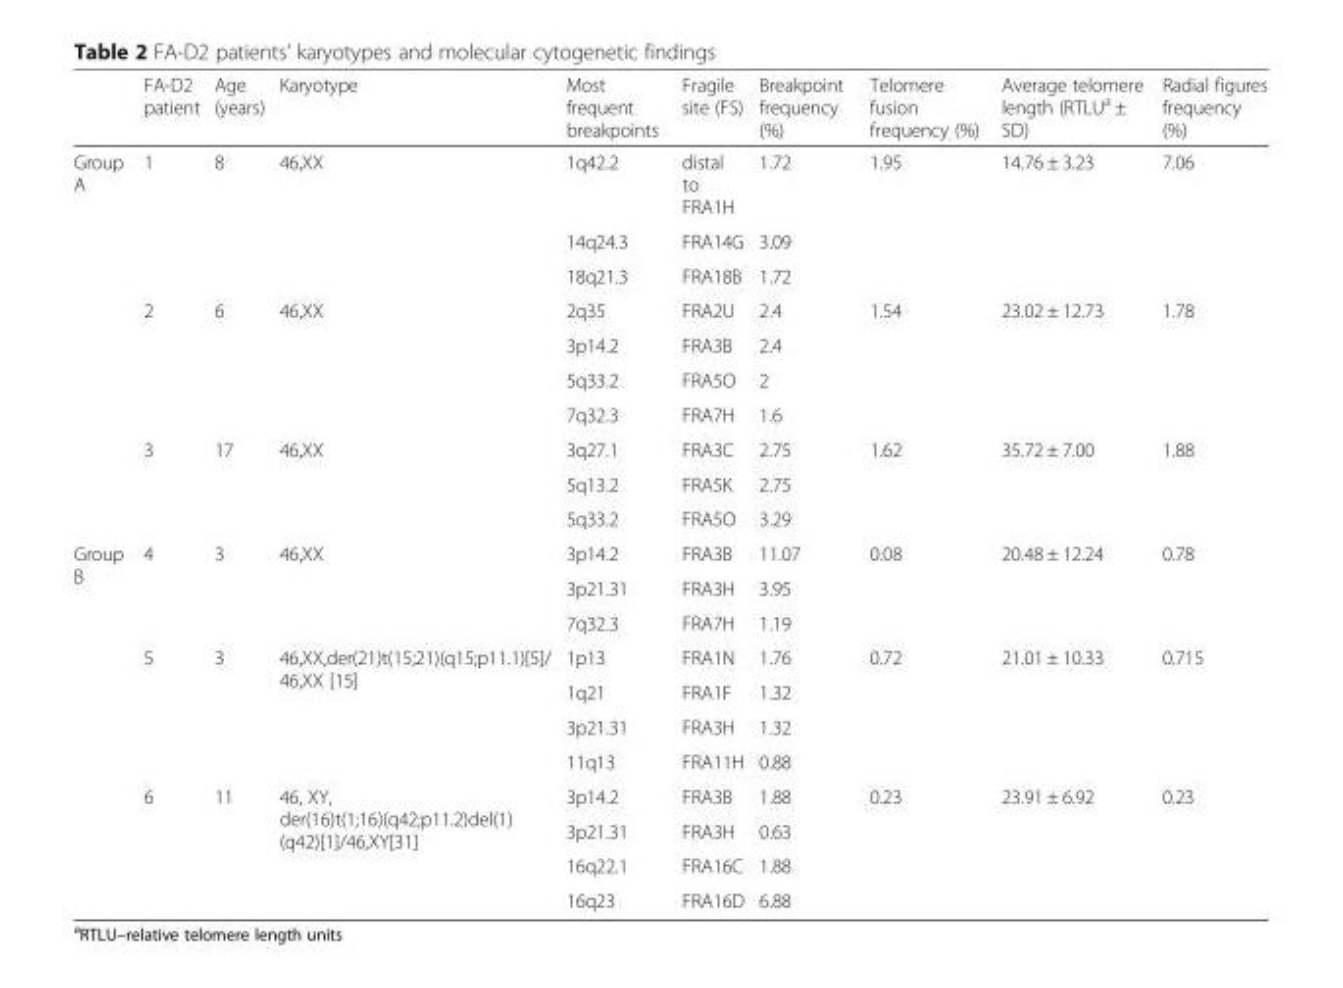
<table><thead><tr><td></td><td>FA-D2 patient</td><td>Age (years)</td><td>Karyotype</td><td>Most frequent breakpoints</td><td>Fragile site (FS)</td><td>Breakpoint frequency (%)</td><td>Telomere fusion frequency (%)</td><td>Average telomere length (RTLU<sup>a</sup> ± SD)</td><td>Radial figures frequency (%)</td></tr></thead><tbody><tr><td rowspan="10">Group A</td><td rowspan="3">1</td><td rowspan="3">8</td><td rowspan="3">46,XX</td><td>1q42.2</td><td>distal to FRA1H</td><td>1.72</td><td rowspan="3">1.95</td><td rowspan="3">14.76 ± 3.23</td><td rowspan="3">7.06</td></tr><tr><td>14q24.3</td><td>FRA14G</td><td>3.09</td></tr><tr><td>18q21.3</td><td>FRA18B</td><td>1.72</td></tr><tr><td rowspan="4">2</td><td rowspan="4">6</td><td rowspan="4">46,XX</td><td>2q35</td><td>FRA2U</td><td>2.4</td><td rowspan="4">1.54</td><td rowspan="4">23.02 ± 12.73</td><td rowspan="4">1.78</td></tr><tr><td>3p14.2</td><td>FRA3B</td><td>2.4</td></tr><tr><td>5q33.2</td><td>FRA5O</td><td>2</td></tr><tr><td>7q32.3</td><td>FRA7H</td><td>1.6</td></tr><tr><td rowspan="3">3</td><td rowspan="3">17</td><td rowspan="3">46,XX</td><td>3q27.1</td><td>FRA3C</td><td>2.75</td><td rowspan="3">1.62</td><td rowspan="3">35.72 ± 7.00</td><td rowspan="3">1.88</td></tr><tr><td>5q13.2</td><td>FRA5K</td><td>2.75</td></tr><tr><td>5q33.2</td><td>FRA5O</td><td>3.29</td></tr><tr><td rowspan="11">Group B</td><td rowspan="3">4</td><td rowspan="3">3</td><td rowspan="3">46,XX</td><td>3p14.2</td><td>FRA3B</td><td>11.07</td><td rowspan="3">0.08</td><td rowspan="3">20.48 ± 12.24</td><td rowspan="3">0.78</td></tr><tr><td>3p21.31</td><td>FRA3H</td><td>3.95</td></tr><tr><td>7q32.3</td><td>FRA7H</td><td>1.19</td></tr><tr><td rowspan="4">5</td><td rowspan="4">3</td><td rowspan="4">46,XX,der(21)t(15;21)(q15;p11.1)[5]/ 46,XX [15]</td><td>1p13</td><td>FRA1N</td><td>1.76</td><td rowspan="4">0.72</td><td rowspan="4">21.01 ± 10.33</td><td rowspan="4">0.715</td></tr><tr><td>1q21</td><td>FRA1F</td><td>1.32</td></tr><tr><td>3p21.31</td><td>FRA3H</td><td>1.32</td></tr><tr><td>11q13</td><td>FRA11H</td><td>0.88</td></tr><tr><td rowspan="4">6</td><td rowspan="4">11</td><td rowspan="4">46, XY, der(16)t(1;16)(q42;p11.2)del(1) (q42)[1]/46,XY[31]</td><td>3p14.2</td><td>FRA3B</td><td>1.88</td><td rowspan="4">0.23</td><td rowspan="4">23.91 ± 6.92</td><td rowspan="4">0.23</td></tr><tr><td>3p21.31</td><td>FRA3H</td><td>0.63</td></tr><tr><td>16q22.1</td><td>FRA16C</td><td>1.88</td></tr><tr><td>16q23</td><td>FRA16D</td><td>6.88</td></tr></tbody></table>